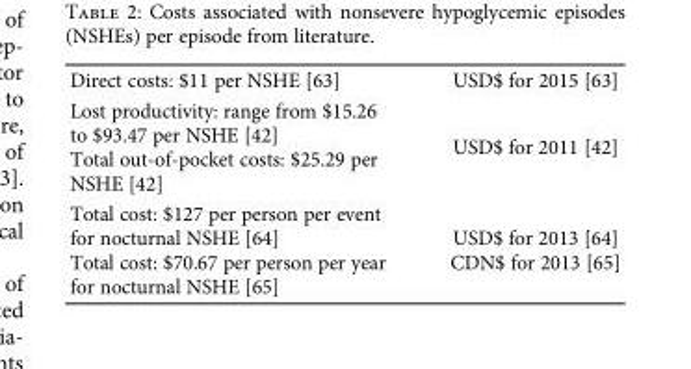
<table><tbody><tr><td>Direct costs: $11 per NSHE [63]</td><td>USD$ for 2015 [63]</td></tr><tr><td>Lost productivity: range from $15.26 to $93.47 per NSHE [42] Total out-of-pocket costs: $25.29 per NSHE [42]</td><td>USD$ for 2011 [42]</td></tr><tr><td>Total cost: $127 per person per event for nocturnal NSHE [64] Total cost: $70.67 per person per year for nocturnal NSHE [65]</td><td>USD$ for 2013 [64] CDN$ for 2013 [65]</td></tr></tbody></table>